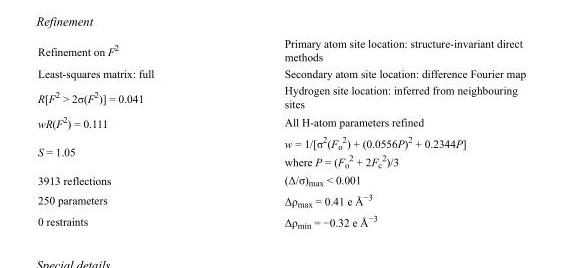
<table><tbody><tr><td>Refinement on F<sup>2</sup></td><td>Primary atom site location: structure-invariant direct methods</td></tr><tr><td>Least-squares matrix: full</td><td>Secondary atom site location: difference Fourier map</td></tr><tr><td>R[F<sup>2</sup> &gt; 2σ(F<sup>2</sup>)] = 0.041</td><td>Hydrogen site location: inferred from neighbouring sites</td></tr><tr><td>wR(F<sup>2</sup>) = 0.111</td><td>All H-atom parameters refined</td></tr><tr><td>S = 1.05</td><td>w = 1/[σ<sup>2</sup>(F<sub>o</sub> <sup>2</sup>) + (0.0556P)<sup>2</sup> + 0.2344P] where P = (F<sub>o</sub> <sup>2</sup> + 2F<sub>c</sub> <sup>2</sup>)/3</td></tr><tr><td>3913 reflections</td><td>(Δ/σ)<sub>max</sub> &lt; 0.001</td></tr><tr><td>250 parameters</td><td>Δρ<sub>max</sub> = 0.41 e Å<sup>−3</sup></td></tr><tr><td>0 restraints</td><td>Δρ<sub>min</sub> = −0.32 e Å<sup>−3</sup></td></tr></tbody></table>